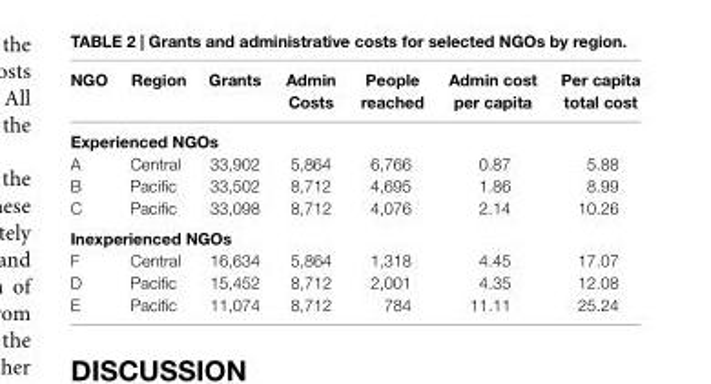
<table><thead><tr><td>ngO</td><td>region</td><td>grants</td><td>admin costs</td><td>People reached</td><td>admin cost per capita</td><td>Per capita total cost</td></tr></thead><tbody><tr><td colspan="7">experienced ngOs</td></tr><tr><td>A</td><td>Central</td><td>33,902</td><td>5,864</td><td>6,766</td><td>0.87</td><td>5.88</td></tr><tr><td>B</td><td>Pacific</td><td>33,502</td><td>8,712</td><td>4,695</td><td>1.86</td><td>8.99</td></tr><tr><td>C</td><td>Pacific</td><td>33,098</td><td>8,712</td><td>4,076</td><td>2.14</td><td>10.26</td></tr><tr><td colspan="7">inexperienced ngOs</td></tr><tr><td>F</td><td>Central</td><td>16,634</td><td>5,864</td><td>1,318</td><td>4.45</td><td>17.07</td></tr><tr><td>D</td><td>Pacific</td><td>15,452</td><td>8,712</td><td>2,001</td><td>4.35</td><td>12.08</td></tr><tr><td>E</td><td>Pacific</td><td>11,074</td><td>8,712</td><td>784</td><td>11.11</td><td>25.24</td></tr></tbody></table>